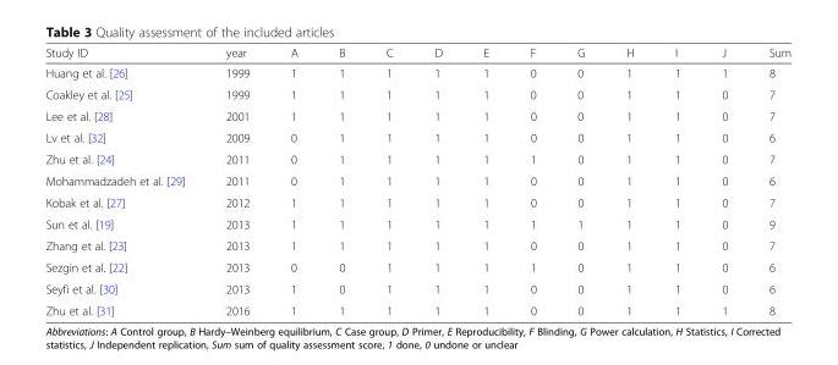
<table><thead><tr><td>Study ID</td><td>year</td><td>A</td><td>B</td><td>C</td><td>D</td><td>E</td><td>F</td><td>G</td><td>H</td><td>I</td><td>J</td><td>Sum</td></tr></thead><tbody><tr><td>Huang et al. [26]</td><td>1999</td><td>1</td><td>1</td><td>1</td><td>1</td><td>1</td><td>0</td><td>0</td><td>1</td><td>1</td><td>1</td><td>8</td></tr><tr><td>Coakley et al. [25]</td><td>1999</td><td>1</td><td>1</td><td>1</td><td>1</td><td>1</td><td>0</td><td>0</td><td>1</td><td>1</td><td>0</td><td>7</td></tr><tr><td>Lee et al. [28]</td><td>2001</td><td>1</td><td>1</td><td>1</td><td>1</td><td>1</td><td>0</td><td>0</td><td>1</td><td>1</td><td>0</td><td>7</td></tr><tr><td>Lv et al. [32]</td><td>2009</td><td>0</td><td>1</td><td>1</td><td>1</td><td>1</td><td>0</td><td>0</td><td>1</td><td>1</td><td>0</td><td>6</td></tr><tr><td>Zhu et al. [24]</td><td>2011</td><td>0</td><td>1</td><td>1</td><td>1</td><td>1</td><td>1</td><td>0</td><td>1</td><td>1</td><td>0</td><td>7</td></tr><tr><td>Mohammadzadeh et al. [29]</td><td>2011</td><td>0</td><td>1</td><td>1</td><td>1</td><td>1</td><td>0</td><td>0</td><td>1</td><td>1</td><td>0</td><td>6</td></tr><tr><td>Kobak et al. [27]</td><td>2012</td><td>1</td><td>1</td><td>1</td><td>1</td><td>1</td><td>0</td><td>0</td><td>1</td><td>1</td><td>0</td><td>7</td></tr><tr><td>Sun et al. [19]</td><td>2013</td><td>1</td><td>1</td><td>1</td><td>1</td><td>1</td><td>1</td><td>1</td><td>1</td><td>1</td><td>0</td><td>9</td></tr><tr><td>Zhang et al. [23]</td><td>2013</td><td>1</td><td>1</td><td>1</td><td>1</td><td>1</td><td>0</td><td>0</td><td>1</td><td>1</td><td>0</td><td>7</td></tr><tr><td>Sezgin et al. [22]</td><td>2013</td><td>0</td><td>0</td><td>1</td><td>1</td><td>1</td><td>1</td><td>0</td><td>1</td><td>1</td><td>0</td><td>6</td></tr><tr><td>Seyfi et al. [30]</td><td>2013</td><td>1</td><td>0</td><td>1</td><td>1</td><td>1</td><td>0</td><td>0</td><td>1</td><td>1</td><td>0</td><td>6</td></tr><tr><td>Zhu et al. [31]</td><td>2016</td><td>1</td><td>1</td><td>1</td><td>1</td><td>1</td><td>0</td><td>0</td><td>1</td><td>1</td><td>1</td><td>8</td></tr></tbody></table>